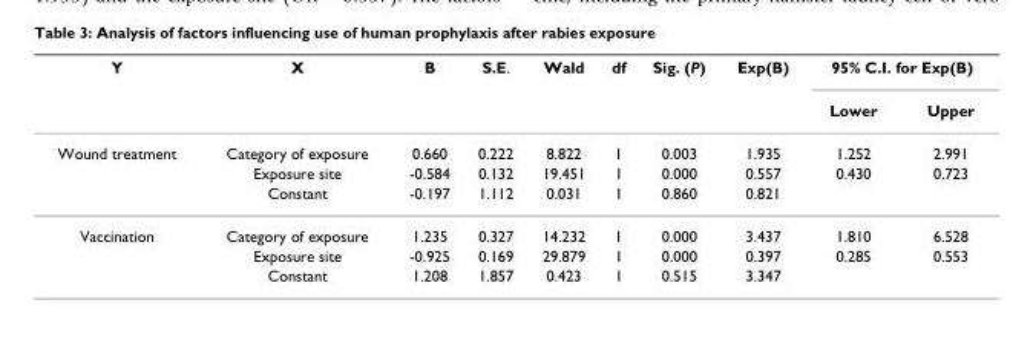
<table><thead><tr><td rowspan="2">Y</td><td rowspan="2">X</td><td rowspan="2">B</td><td rowspan="2">S.E.</td><td rowspan="2">Wald</td><td rowspan="2">df</td><td rowspan="2">Sig. (P)</td><td rowspan="2">Exp(B)</td><td colspan="2">95% C.I. for Exp(B)</td></tr><tr><td>Lower</td><td>Upper</td></tr></thead><tbody><tr><td rowspan="3">Wound treatment</td><td>Category of exposure</td><td>0.660</td><td>0.222</td><td>8.822</td><td>1</td><td>0.003</td><td>1.935</td><td>1.252</td><td>2.991</td></tr><tr><td>Exposure site</td><td>-0.584</td><td>0.132</td><td>19.451</td><td>1</td><td>0.000</td><td>0.557</td><td>0.430</td><td>0.723</td></tr><tr><td>Constant</td><td>-0.197</td><td>1.112</td><td>0.031</td><td>1</td><td>0.860</td><td>0.821</td><td></td><td></td></tr><tr><td rowspan="3">Vaccination</td><td>Category of exposure</td><td>1.235</td><td>0.327</td><td>14.232</td><td>1</td><td>0.000</td><td>3.437</td><td>1.810</td><td>6.528</td></tr><tr><td>Exposure site</td><td>-0.925</td><td>0.169</td><td>29.879</td><td>1</td><td>0.000</td><td>0.397</td><td>0.285</td><td>0.553</td></tr><tr><td>Constant</td><td>1.208</td><td>1.857</td><td>0.423</td><td>1</td><td>0.515</td><td>3.347</td><td></td><td></td></tr></tbody></table>